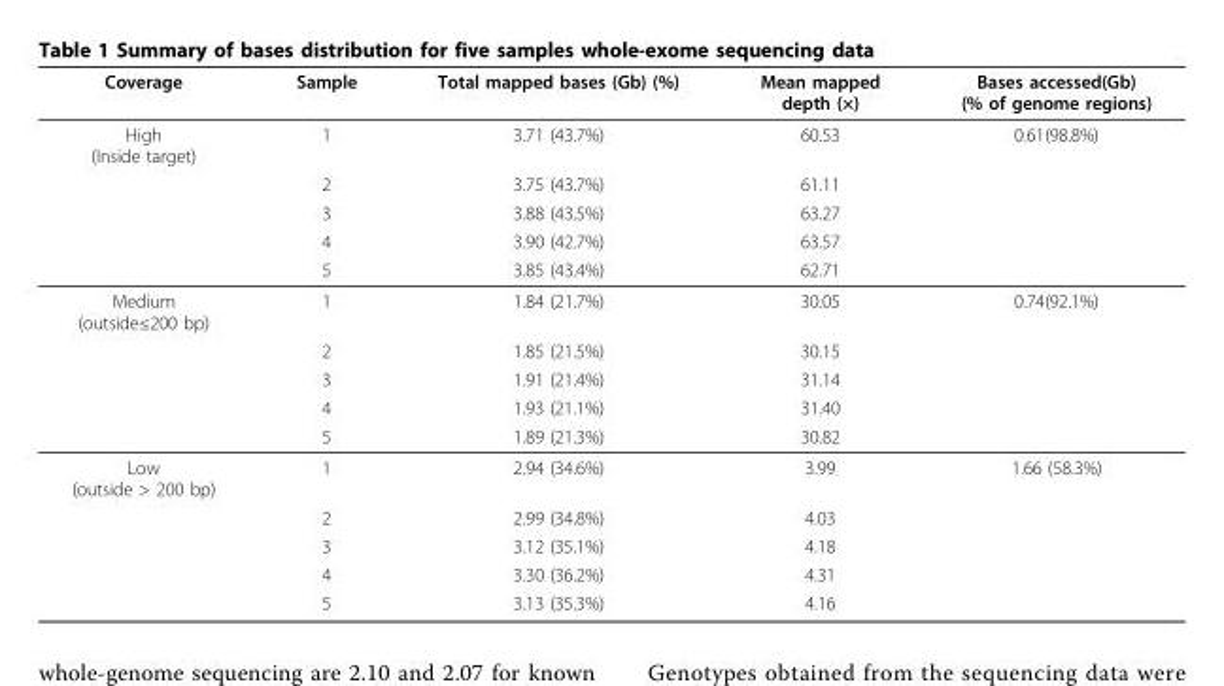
<table><thead><tr><td>Coverage</td><td>Sample</td><td>Total mapped bases (Gb) (%)</td><td>Mean mapped depth (×)</td><td>Bases accessed(Gb) (% of genome regions)</td></tr></thead><tbody><tr><td rowspan="5">High (Inside target)</td><td>1</td><td>3.71 (43.7%)</td><td>60.53</td><td>0.61(98.8%)</td></tr><tr><td>2</td><td>3.75 (43.7%)</td><td>61.11</td><td></td></tr><tr><td>3</td><td>3.88 (43.5%)</td><td>63.27</td><td></td></tr><tr><td>4</td><td>3.90 (42.7%)</td><td>63.57</td><td></td></tr><tr><td>5</td><td>3.85 (43.4%)</td><td>62.71</td><td></td></tr><tr><td rowspan="5">Medium (outside≤200 bp)</td><td>1</td><td>1.84 (21.7%)</td><td>30.05</td><td>0.74(92.1%)</td></tr><tr><td>2</td><td>1.85 (21.5%)</td><td>30.15</td><td></td></tr><tr><td>3</td><td>1.91 (21.4%)</td><td>31.14</td><td></td></tr><tr><td>4</td><td>1.93 (21.1%)</td><td>31.40</td><td></td></tr><tr><td>5</td><td>1.89 (21.3%)</td><td>30.82</td><td></td></tr><tr><td rowspan="5">Low (outside &gt; 200 bp)</td><td>1</td><td>2.94 (34.6%)</td><td>3.99</td><td>1.66 (58.3%)</td></tr><tr><td>2</td><td>2.99 (34.8%)</td><td>4.03</td><td></td></tr><tr><td>3</td><td>3.12 (35.1%)</td><td>4.18</td><td></td></tr><tr><td>4</td><td>3.30 (36.2%)</td><td>4.31</td><td></td></tr><tr><td>5</td><td>3.13 (35.3%)</td><td>4.16</td><td></td></tr></tbody></table>